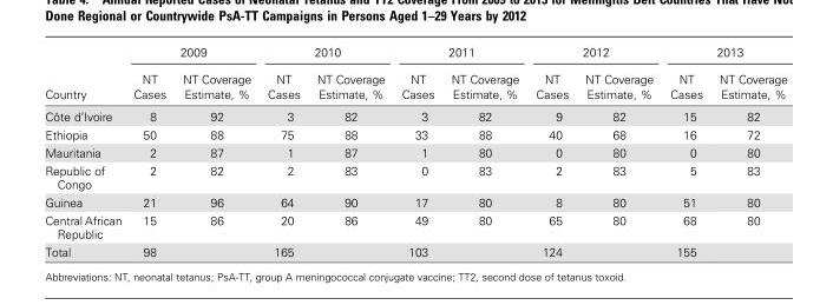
<table><thead><tr><td rowspan="2">Country</td><td colspan="2">2009</td><td colspan="2">2010</td><td colspan="2">2011</td><td colspan="2">2012</td><td colspan="2">2013</td></tr><tr><td>NT Cases</td><td>NT Coverage Estimate, %</td><td>NT Cases</td><td>NT Coverage Estimate, %</td><td>NT Cases</td><td>NT Coverage Estimate, %</td><td>NT Cases</td><td>NT Coverage Estimate, %</td><td>NT Cases</td><td>NT Coverage Estimate, %</td></tr></thead><tbody><tr><td>Côte d’Ivoire</td><td>8</td><td>92</td><td>3</td><td>82</td><td>3</td><td>82</td><td>9</td><td>82</td><td>15</td><td>82</td></tr><tr><td>Ethiopia</td><td>50</td><td>88</td><td>75</td><td>88</td><td>33</td><td>88</td><td>40</td><td>68</td><td>16</td><td>72</td></tr><tr><td>Mauritania</td><td>2</td><td>87</td><td>1</td><td>87</td><td>1</td><td>80</td><td>0</td><td>80</td><td>0</td><td>80</td></tr><tr><td>Republic of Congo</td><td>2</td><td>82</td><td>2</td><td>83</td><td>0</td><td>83</td><td>2</td><td>83</td><td>5</td><td>83</td></tr><tr><td>Guinea</td><td>21</td><td>96</td><td>64</td><td>90</td><td>17</td><td>80</td><td>8</td><td>80</td><td>51</td><td>80</td></tr><tr><td>Central African Republic</td><td>15</td><td>86</td><td>20</td><td>86</td><td>49</td><td>80</td><td>65</td><td>80</td><td>68</td><td>80</td></tr><tr><td>Total</td><td>98</td><td></td><td>165</td><td></td><td>103</td><td></td><td>124</td><td></td><td>155</td><td></td></tr></tbody></table>